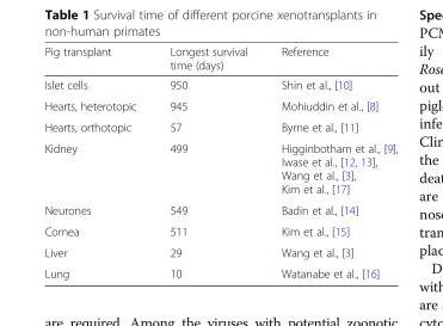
<table><thead><tr><td>Pig transplant</td><td>Longest survival time (days)</td><td>Reference</td></tr></thead><tbody><tr><td>Islet cells</td><td>950</td><td>Shin et al., [10]</td></tr><tr><td>Hearts, heterotopic</td><td>945</td><td>Mohiuddin et al., [8]</td></tr><tr><td>Hearts, orthotopic</td><td>57</td><td>Byrne et al., [11]</td></tr><tr><td>Kidney</td><td>499</td><td>Higginbotham et al., [9], Iwase et al., [12, 13], Wang et al., [3], Kim et al., [17]</td></tr><tr><td>Neurones</td><td>549</td><td>Badin et al., [14]</td></tr><tr><td>Cornea</td><td>511</td><td>Kim et al., [15]</td></tr><tr><td>Liver</td><td>29</td><td>Wang et al., [3]</td></tr><tr><td>Lung</td><td>10</td><td>Watanabe et al., [16]</td></tr></tbody></table>